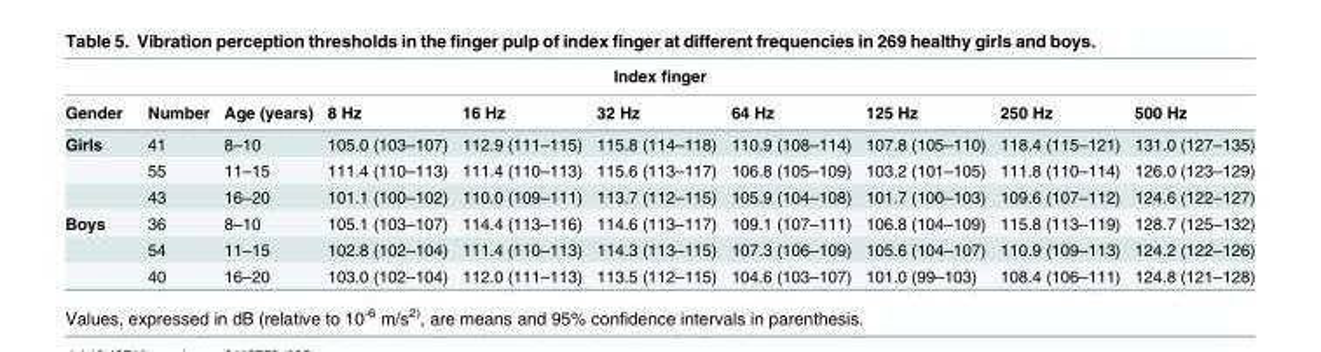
<table><thead><tr><td colspan="10">Index finger</td></tr><tr><td>Gender</td><td>Number</td><td>Age (years)</td><td>8 Hz</td><td>16 Hz</td><td>32 Hz</td><td>64 Hz</td><td>125 Hz</td><td>250 Hz</td><td>500 Hz</td></tr></thead><tbody><tr><td rowspan="3">Girls</td><td>41</td><td>8–10</td><td>105.0 (103–107)</td><td>112.9 (111–115)</td><td>115.8 (114–118)</td><td>110.9 (108–114)</td><td>107.8 (105–110)</td><td>118.4 (115–121)</td><td>131.0 (127–135)</td></tr><tr><td>55</td><td>11–15</td><td>111.4 (110–113)</td><td>111.4 (110–113)</td><td>115.6 (113–117)</td><td>106.8 (105–109)</td><td>103.2 (101–105)</td><td>111.8 (110–114)</td><td>126.0 (123–129)</td></tr><tr><td>43</td><td>16–20</td><td>101.1 (100–102)</td><td>110.0 (109–111)</td><td>113.7 (112–115)</td><td>105.9 (104–108)</td><td>101.7 (100–103)</td><td>109.6 (107–112)</td><td>124.6 (122–127)</td></tr><tr><td rowspan="3">Boys</td><td>36</td><td>8–10</td><td>105.1 (103–107)</td><td>114.4 (113–116)</td><td>114.6 (113–117)</td><td>109.1 (107–111)</td><td>106.8 (104–109)</td><td>115.8 (113–119)</td><td>128.7 (125–132)</td></tr><tr><td>54</td><td>11–15</td><td>102.8 (102–104)</td><td>111.4 (110–113)</td><td>114.3 (113–115)</td><td>107.3 (106–109)</td><td>105.6 (104–107)</td><td>110.9 (109–113)</td><td>124.2 (122–126)</td></tr><tr><td>40</td><td>16–20</td><td>103.0 (102–104)</td><td>112.0 (111–113)</td><td>113.5 (112–115)</td><td>104.6 (103–107)</td><td>101.0 (99–103)</td><td>108.4 (106–111)</td><td>124.8 (121–128)</td></tr></tbody></table>